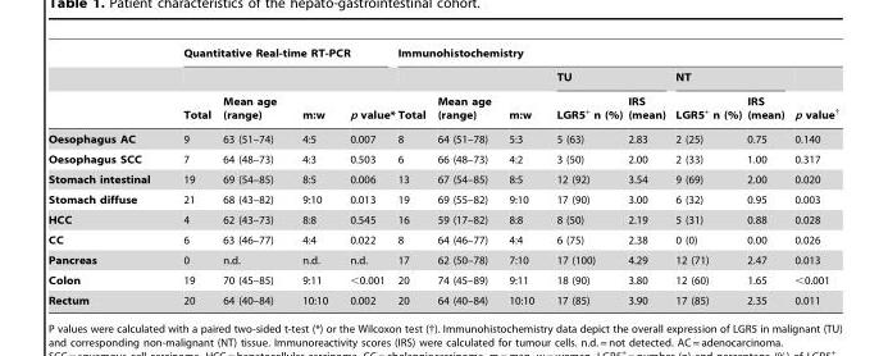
<table><thead><tr><td rowspan="3"></td><td colspan="4">Quantitative Real-time RT-PCR</td><td colspan="8">Immunohistochemistry</td></tr><tr><td rowspan="2">Total</td><td rowspan="2">Mean age (range)</td><td rowspan="2">m:w</td><td rowspan="2">p value*</td><td rowspan="2">Total</td><td rowspan="2">Mean age (range)</td><td rowspan="2">m:w</td><td colspan="2">TU</td><td colspan="2">NT</td><td rowspan="2">p value<sup>†</sup></td></tr><tr><td>LGR5<sup>+</sup> n (%)</td><td>IRS (mean)</td><td>LGR5<sup>+</sup> n (%)</td><td>IRS (mean)</td></tr></thead><tbody><tr><td>Oesophagus AC</td><td>9</td><td>63 (51–74)</td><td>4:5</td><td>0.007</td><td>8</td><td>64 (51–78)</td><td>5:3</td><td>5 (63)</td><td>2.83</td><td>2 (25)</td><td>0.75</td><td>0.140</td></tr><tr><td>Oesophagus SCC</td><td>7</td><td>64 (48–73)</td><td>4:3</td><td>0.503</td><td>6</td><td>66 (48–73)</td><td>4:2</td><td>3 (50)</td><td>2.00</td><td>2 (33)</td><td>1.00</td><td>0.317</td></tr><tr><td>Stomach intestinal</td><td>19</td><td>69 (54–85)</td><td>8:5</td><td>0.006</td><td>13</td><td>67 (54–85)</td><td>8:5</td><td>12 (92)</td><td>3.54</td><td>9 (69)</td><td>2.00</td><td>0.020</td></tr><tr><td>Stomach diffuse</td><td>21</td><td>68 (43–82)</td><td>9:10</td><td>0.013</td><td>19</td><td>69 (55–82)</td><td>9:10</td><td>17 (90)</td><td>3.00</td><td>6 (32)</td><td>0.95</td><td>0.003</td></tr><tr><td>HCC</td><td>4</td><td>62 (43–73)</td><td>8:8</td><td>0.545</td><td>16</td><td>59 (17–82)</td><td>8:8</td><td>8 (50)</td><td>2.19</td><td>5 (31)</td><td>0.88</td><td>0.028</td></tr><tr><td>CC</td><td>6</td><td>63 (46–77)</td><td>4:4</td><td>0.022</td><td>8</td><td>64 (46–77)</td><td>4:4</td><td>6 (75)</td><td>2.38</td><td>0 (0)</td><td>0.00</td><td>0.026</td></tr><tr><td>Pancreas</td><td>0</td><td>n.d.</td><td>n.d.</td><td>n.d.</td><td>17</td><td>62 (50–78)</td><td>7:10</td><td>17 (100)</td><td>4.29</td><td>12 (71)</td><td>2.47</td><td>0.013</td></tr><tr><td>Colon</td><td>19</td><td>70 (45–85)</td><td>9:11</td><td>&lt;0.001</td><td>20</td><td>74 (45–89)</td><td>9:11</td><td>18 (90)</td><td>3.80</td><td>12 (60)</td><td>1.65</td><td>&lt;0.001</td></tr><tr><td>Rectum</td><td>20</td><td>64 (40–84)</td><td>10:10</td><td>0.002</td><td>20</td><td>64 (40–84)</td><td>10:10</td><td>17 (85)</td><td>3.90</td><td>17 (85)</td><td>2.35</td><td>0.011</td></tr></tbody></table>